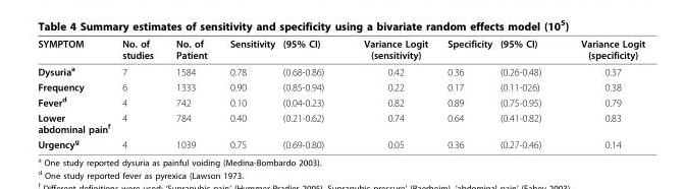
<table><thead><tr><td>SYMPTOM</td><td>No. of studies</td><td>No. of Patient</td><td>Sensitivity</td><td>(95% CI)</td><td>Variance Logit (sensitivity)</td><td>Specificity</td><td>(95% CI)</td><td>Variance Logit (specificity)</td></tr></thead><tbody><tr><td>Dysuria<sup>a</sup></td><td>7</td><td>1584</td><td>0.78</td><td>(0.68-0.86)</td><td>0.42</td><td>0.36</td><td>(0.26-0.48)</td><td>0.37</td></tr><tr><td>Frequency</td><td>6</td><td>1333</td><td>0.90</td><td>(0.85-0.94)</td><td>0.22</td><td>0.17</td><td>(0.11-026)</td><td>0.38</td></tr><tr><td>Fever<sup>d</sup></td><td>4</td><td>742</td><td>0.10</td><td>(0.04-0.23)</td><td>0.82</td><td>0.89</td><td>(0.75-0.95)</td><td>0.79</td></tr><tr><td>Lower abdominal pain<sup>f</sup></td><td>4</td><td>784</td><td>0.40</td><td>(0.21-0.62)</td><td>0.74</td><td>0.64</td><td>(0.41-0.82)</td><td>0.83</td></tr><tr><td>Urgency<sup>g</sup></td><td>4</td><td>1039</td><td>0.75</td><td>(0.69-0.80)</td><td>0.05</td><td>0.36</td><td>(0.27-0.46)</td><td>0.14</td></tr></tbody></table>